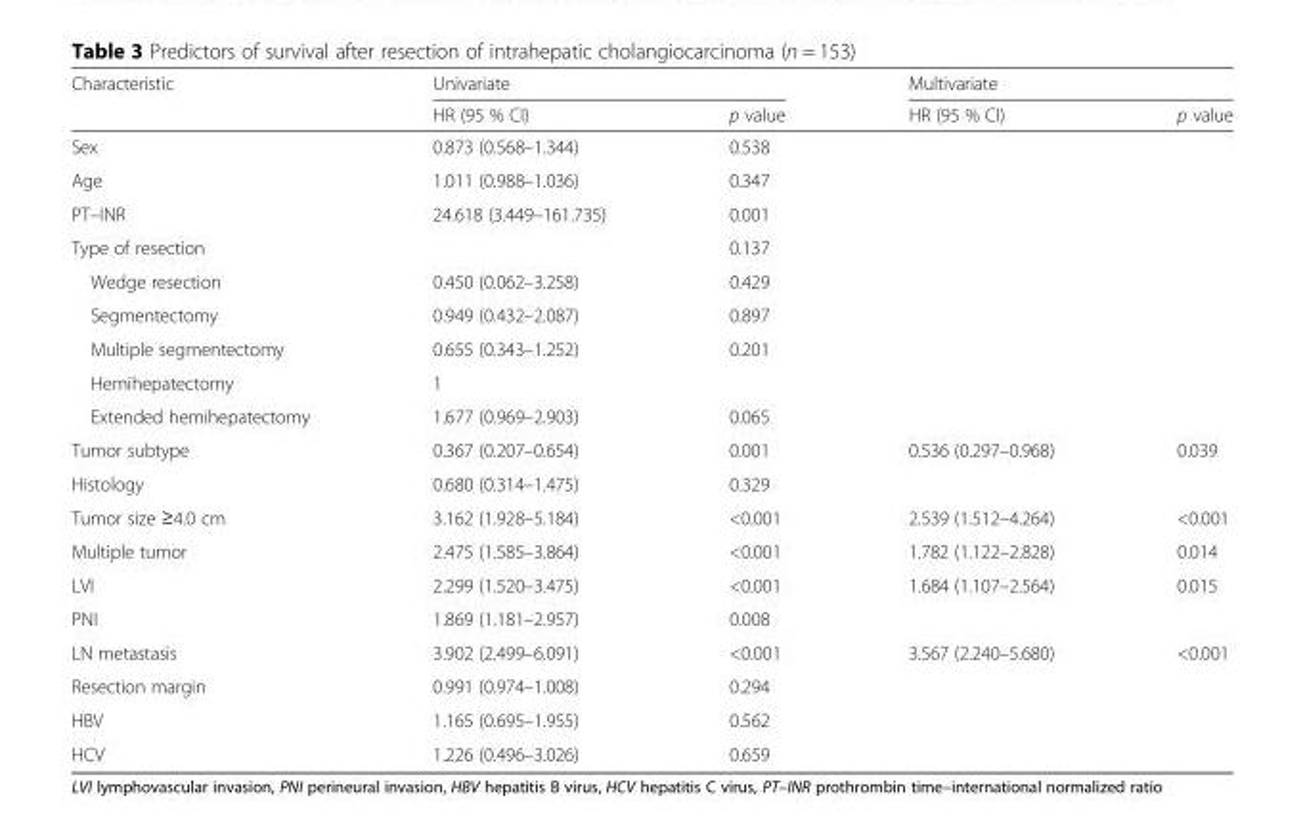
<table><thead><tr><td rowspan="2">Characteristic</td><td colspan="2">Univariate</td><td colspan="2">Multivariate</td></tr><tr><td>HR (95 % CI)</td><td>p value</td><td>HR (95 % CI)</td><td>p value</td></tr></thead><tbody><tr><td>Sex</td><td>0.873 (0.568–1.344)</td><td>0.538</td><td></td><td></td></tr><tr><td>Age</td><td>1.011 (0.988–1.036)</td><td>0.347</td><td></td><td></td></tr><tr><td>PT–INR</td><td>24.618 (3.449–161.735)</td><td>0.001</td><td></td><td></td></tr><tr><td>Type of resection</td><td></td><td>0.137</td><td></td><td></td></tr><tr><td>Wedge resection</td><td>0.450 (0.062–3.258)</td><td>0.429</td><td></td><td></td></tr><tr><td>Segmentectomy</td><td>0.949 (0.432–2.087)</td><td>0.897</td><td></td><td></td></tr><tr><td>Multiple segmentectomy</td><td>0.655 (0.343–1.252)</td><td>0.201</td><td></td><td></td></tr><tr><td>Hemihepatectomy</td><td>1</td><td></td><td></td><td></td></tr><tr><td>Extended hemihepatectomy</td><td>1.677 (0.969–2.903)</td><td>0.065</td><td></td><td></td></tr><tr><td>Tumor subtype</td><td>0.367 (0.207–0.654)</td><td>0.001</td><td>0.536 (0.297–0.968)</td><td>0.039</td></tr><tr><td>Histology</td><td>0.680 (0.314–1.475)</td><td>0.329</td><td></td><td></td></tr><tr><td>Tumor size ≥4.0 cm</td><td>3.162 (1.928–5.184)</td><td>&lt;0.001</td><td>2.539 (1.512–4.264)</td><td>&lt;0.001</td></tr><tr><td>Multiple tumor</td><td>2.475 (1.585–3.864)</td><td>&lt;0.001</td><td>1.782 (1.122–2.828)</td><td>0.014</td></tr><tr><td>LVI</td><td>2.299 (1.520–3.475)</td><td>&lt;0.001</td><td>1.684 (1.107–2.564)</td><td>0.015</td></tr><tr><td>PNI</td><td>1.869 (1.181–2.957)</td><td>0.008</td><td></td><td></td></tr><tr><td>LN metastasis</td><td>3.902 (2.499–6.091)</td><td>&lt;0.001</td><td>3.567 (2.240–5.680)</td><td>&lt;0.001</td></tr><tr><td>Resection margin</td><td>0.991 (0.974–1.008)</td><td>0.294</td><td></td><td></td></tr><tr><td>HBV</td><td>1.165 (0.695–1.955)</td><td>0.562</td><td></td><td></td></tr><tr><td>HCV</td><td>1.226 (0.496–3.026)</td><td>0.659</td><td></td><td></td></tr></tbody></table>